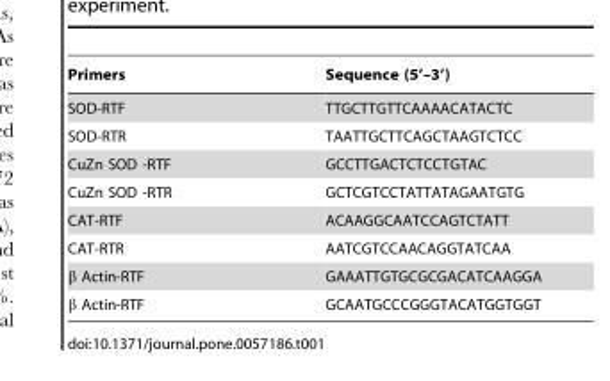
<table><thead><tr><td>Primers</td><td>Sequence (5’–3’)</td></tr></thead><tbody><tr><td>SOD-RTF</td><td>TTGCTTGTTCAAAACATACTC</td></tr><tr><td>SOD-RTR</td><td>TAATTGCTTCAGCTAAGTCTCC</td></tr><tr><td>CuZn SOD -RTF</td><td>GCCTTGACTCTCCTGTAC</td></tr><tr><td>CuZn SOD -RTR</td><td>GCTCGTCCTATTATAGAATGTG</td></tr><tr><td>CAT-RTF</td><td>ACAAGGCAATCCAGTCTATT</td></tr><tr><td>CAT-RTR</td><td>AATCGTCCAACAGGTATCAA</td></tr><tr><td>β Actin-RTF</td><td>GAAATTGTGCGCGACATCAAGGA</td></tr><tr><td>β Actin-RTF</td><td>GCAATGCCCGGGTACATGGTGGT</td></tr></tbody></table>